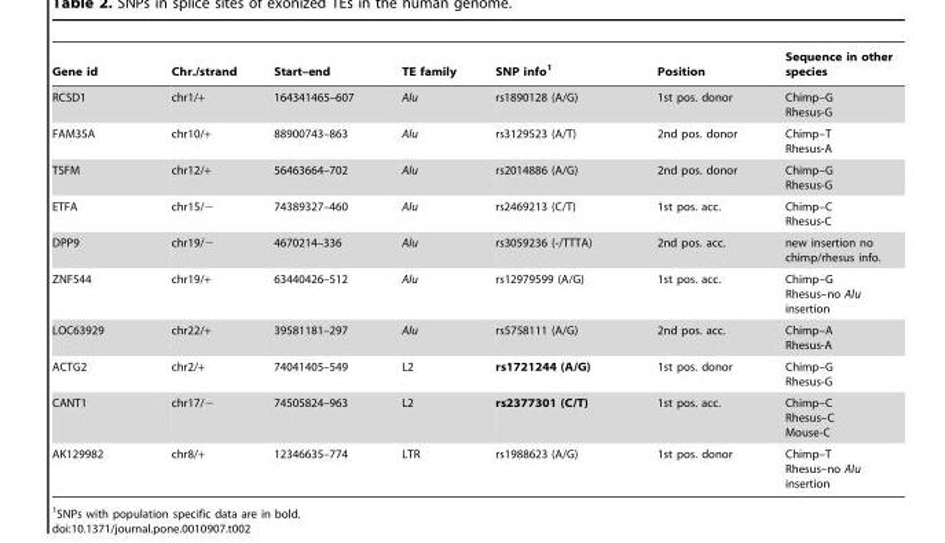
<table><thead><tr><td>Gene id</td><td>Chr./strand</td><td>Start–end</td><td>TE family</td><td>SNP info<sup>1</sup></td><td>Position</td><td>Sequence in other species</td></tr></thead><tbody><tr><td>RCSD1</td><td>chr1/+</td><td>164341465–607</td><td>Alu</td><td>rs1890128 (A/G)</td><td>1st pos. donor</td><td>Chimp–G Rhesus-G</td></tr><tr><td>FAM35A</td><td>chr10/+</td><td>88900743–863</td><td>Alu</td><td>rs3129523 (A/T)</td><td>2nd pos. donor</td><td>Chimp–T Rhesus-A</td></tr><tr><td>TSFM</td><td>chr12/+</td><td>56463664–702</td><td>Alu</td><td>rs2014886 (A/G)</td><td>2nd pos. donor</td><td>Chimp–G Rhesus-G</td></tr><tr><td>ETFA</td><td>chr15/−</td><td>74389327–460</td><td>Alu</td><td>rs2469213 (C/T)</td><td>1st pos. acc.</td><td>Chimp–C Rhesus-C</td></tr><tr><td>DPP9</td><td>chr19/−</td><td>4670214–336</td><td>Alu</td><td>rs3059236 (-/TTTA)</td><td>2nd pos. acc.</td><td>new insertion no chimp/rhesus info.</td></tr><tr><td>ZNF544</td><td>chr19/+</td><td>63440426–512</td><td>Alu</td><td>rs12979599 (A/G)</td><td>1st pos. acc.</td><td>Chimp–G Rhesus–no Alu insertion</td></tr><tr><td>LOC63929</td><td>chr22/+</td><td>39581181–297</td><td>Alu</td><td>rs5758111 (A/G)</td><td>2nd pos. acc.</td><td>Chimp–A Rhesus-A</td></tr><tr><td>ACTG2</td><td>chr2/+</td><td>74041405–549</td><td>L2</td><td>rs1721244 (A/G)</td><td>1st pos. donor</td><td>Chimp–G Rhesus-G</td></tr><tr><td>CANT1</td><td>chr17/−</td><td>74505824–963</td><td>L2</td><td>rs2377301 (C/T)</td><td>1st pos. acc.</td><td>Chimp–C Rhesus–C Mouse-C</td></tr><tr><td>AK129982</td><td>chr8/+</td><td>12346635–774</td><td>LTR</td><td>rs1988623 (A/G)</td><td>1st pos. donor</td><td>Chimp–T Rhesus–no Alu insertion</td></tr></tbody></table>